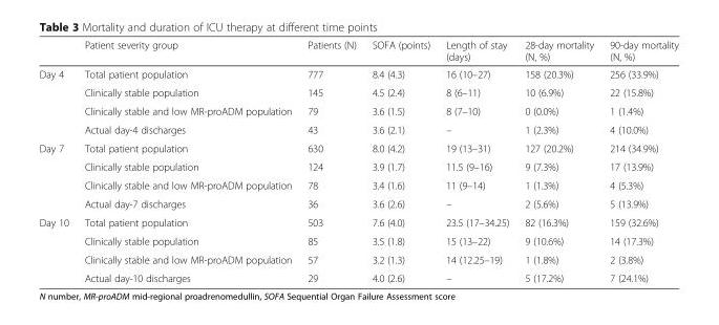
<table><thead><tr><td></td><td>Patient severity group</td><td>Patients (N)</td><td>SOFA (points)</td><td>Length of stay (days)</td><td>28-day mortality (N, %)</td><td>90-day mortality (N, %)</td></tr></thead><tbody><tr><td rowspan="4">Day 4</td><td>Total patient population</td><td>777</td><td>8.4 (4.3)</td><td>16 (10–27)</td><td>158 (20.3%)</td><td>256 (33.9%)</td></tr><tr><td>Clinically stable population</td><td>145</td><td>4.5 (2.4)</td><td>8 (6–11)</td><td>10 (6.9%)</td><td>22 (15.8%)</td></tr><tr><td>Clinically stable and low MR-proADM population</td><td>79</td><td>3.6 (1.5)</td><td>8 (7–10)</td><td>0 (0.0%)</td><td>1 (1.4%)</td></tr><tr><td>Actual day-4 discharges</td><td>43</td><td>3.6 (2.1)</td><td>–</td><td>1 (2.3%)</td><td>4 (10.0%)</td></tr><tr><td rowspan="4">Day 7</td><td>Total patient population</td><td>630</td><td>8.0 (4.2)</td><td>19 (13–31)</td><td>127 (20.2%)</td><td>214 (34.9%)</td></tr><tr><td>Clinically stable population</td><td>124</td><td>3.9 (1.7)</td><td>11.5 (9–16)</td><td>9 (7.3%)</td><td>17 (13.9%)</td></tr><tr><td>Clinically stable and low MR-proADM population</td><td>78</td><td>3.4 (1.6)</td><td>11 (9–14)</td><td>1 (1.3%)</td><td>4 (5.3%)</td></tr><tr><td>Actual day-7 discharges</td><td>36</td><td>3.6 (2.6)</td><td>–</td><td>2 (5.6%)</td><td>5 (13.9%)</td></tr><tr><td rowspan="4">Day 10</td><td>Total patient population</td><td>503</td><td>7.6 (4.0)</td><td>23.5 (17–34.25)</td><td>82 (16.3%)</td><td>159 (32.6%)</td></tr><tr><td>Clinically stable population</td><td>85</td><td>3.5 (1.8)</td><td>15 (13–22)</td><td>9 (10.6%)</td><td>14 (17.3%)</td></tr><tr><td>Clinically stable and low MR-proADM population</td><td>57</td><td>3.2 (1.3)</td><td>14 (12.25–19)</td><td>1 (1.8%)</td><td>2 (3.8%)</td></tr><tr><td>Actual day-10 discharges</td><td>29</td><td>4.0 (2.6)</td><td>–</td><td>5 (17.2%)</td><td>7 (24.1%)</td></tr></tbody></table>